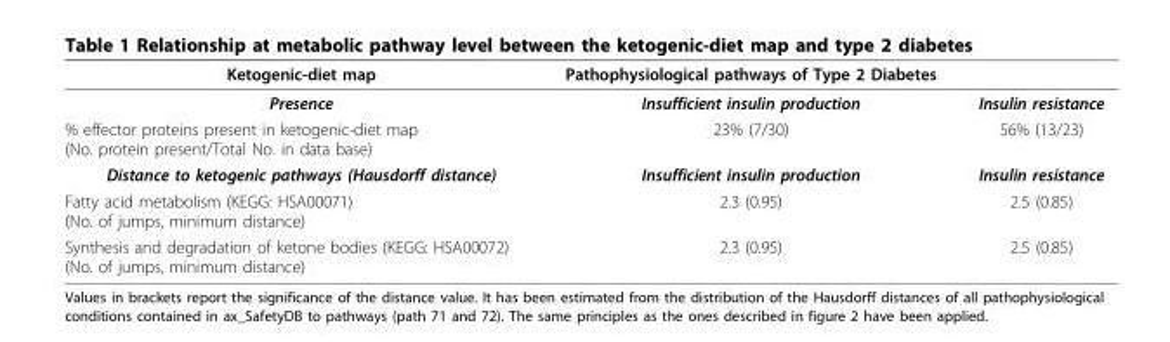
<table><thead><tr><td>Ketogenic-diet map</td><td>Pathophysiological pathways of Type 2 Diabetes</td><td></td></tr></thead><tbody><tr><td>Presence</td><td>Insufficient insulin production</td><td>Insulin resistance</td></tr><tr><td>% effector proteins present in ketogenic-diet map (No. protein present/Total No. in data base)</td><td>23% (7/30)</td><td>56% (13/23)</td></tr><tr><td>Distance to ketogenic pathways (Hausdorff distance)</td><td>Insufficient insulin production</td><td>Insulin resistance</td></tr><tr><td>Fatty acid metabolism (KEGG: HSA00071) (No. of jumps, minimum distance)</td><td>2.3 (0.95)</td><td>2.5 (0.85)</td></tr><tr><td>Synthesis and degradation of ketone bodies (KEGG: HSA00072) (No. of jumps, minimum distance)</td><td>2.3 (0.95)</td><td>2.5 (0.85)</td></tr></tbody></table>